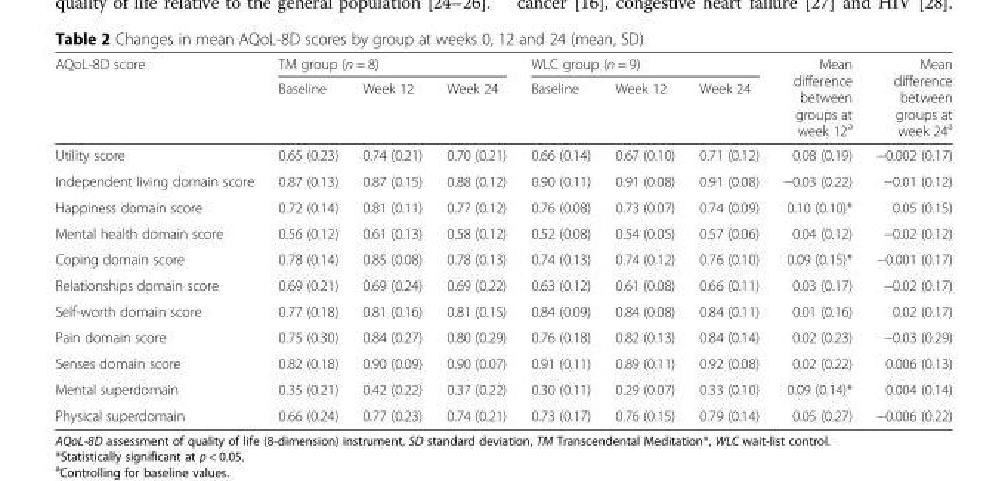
<table><thead><tr><td rowspan="2">AQoL-8D score</td><td colspan="3">TM group (n = 8)</td><td colspan="3">WLC group (n = 9)</td><td rowspan="2">Mean difference between groups at week 12<sup>a</sup></td><td rowspan="2">Mean difference between groups at week 24<sup>a</sup></td></tr><tr><td>Baseline</td><td>Week 12</td><td>Week 24</td><td>Baseline</td><td>Week 12</td><td>Week 24</td></tr></thead><tbody><tr><td>Utility score</td><td>0.65 (0.23)</td><td>0.74 (0.21)</td><td>0.70 (0.21)</td><td>0.66 (0.14)</td><td>0.67 (0.10)</td><td>0.71 (0.12)</td><td>0.08 (0.19)</td><td>−0.002 (0.17)</td></tr><tr><td>Independent living domain score</td><td>0.87 (0.13)</td><td>0.87 (0.15)</td><td>0.88 (0.12)</td><td>0.90 (0.11)</td><td>0.91 (0.08)</td><td>0.91 (0.08)</td><td>−0.03 (0.22)</td><td>−0.01 (0.12)</td></tr><tr><td>Happiness domain score</td><td>0.72 (0.14)</td><td>0.81 (0.11)</td><td>0.77 (0.12)</td><td>0.76 (0.08)</td><td>0.73 (0.07)</td><td>0.74 (0.09)</td><td>0.10 (0.10)*</td><td>0.05 (0.15)</td></tr><tr><td>Mental health domain score</td><td>0.56 (0.12)</td><td>0.61 (0.13)</td><td>0.58 (0.12)</td><td>0.52 (0.08)</td><td>0.54 (0.05)</td><td>0.57 (0.06)</td><td>0.04 (0.12)</td><td>−0.02 (0.12)</td></tr><tr><td>Coping domain score</td><td>0.78 (0.14)</td><td>0.85 (0.08)</td><td>0.78 (0.13)</td><td>0.74 (0.13)</td><td>0.74 (0.12)</td><td>0.76 (0.10)</td><td>0.09 (0.15)*</td><td>−0.001 (0.17)</td></tr><tr><td>Relationships domain score</td><td>0.69 (0.21)</td><td>0.69 (0.24)</td><td>0.69 (0.22)</td><td>0.63 (0.12)</td><td>0.61 (0.08)</td><td>0.66 (0.11)</td><td>0.03 (0.17)</td><td>−0.02 (0.17)</td></tr><tr><td>Self-worth domain score</td><td>0.77 (0.18)</td><td>0.81 (0.16)</td><td>0.81 (0.15)</td><td>0.84 (0.09)</td><td>0.84 (0.08)</td><td>0.84 (0.11)</td><td>0.01 (0.16)</td><td>0.02 (0.17)</td></tr><tr><td>Pain domain score</td><td>0.75 (0.30)</td><td>0.84 (0.27)</td><td>0.80 (0.29)</td><td>0.76 (0.18)</td><td>0.82 (0.13)</td><td>0.84 (0.14)</td><td>0.02 (0.23)</td><td>−0.03 (0.29)</td></tr><tr><td>Senses domain score</td><td>0.82 (0.18)</td><td>0.90 (0.09)</td><td>0.90 (0.07)</td><td>0.91 (0.11)</td><td>0.89 (0.11)</td><td>0.92 (0.08)</td><td>0.02 (0.22)</td><td>0.006 (0.13)</td></tr><tr><td>Mental superdomain</td><td>0.35 (0.21)</td><td>0.42 (0.22)</td><td>0.37 (0.22)</td><td>0.30 (0.11)</td><td>0.29 (0.07)</td><td>0.33 (0.10)</td><td>0.09 (0.14)*</td><td>0.004 (0.14)</td></tr><tr><td>Physical superdomain</td><td>0.66 (0.24)</td><td>0.77 (0.23)</td><td>0.74 (0.21)</td><td>0.73 (0.17)</td><td>0.76 (0.15)</td><td>0.79 (0.14)</td><td>0.05 (0.27)</td><td>−0.006 (0.22)</td></tr></tbody></table>